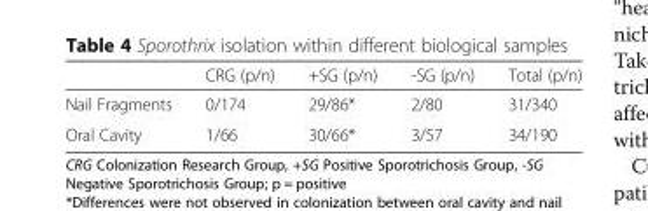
<table><thead><tr><td></td><td>CRG (p/n)</td><td>+SG (p/n)</td><td>-SG (p/n)</td><td>Total (p/n)</td></tr></thead><tbody><tr><td>Nail Fragments</td><td>0/174</td><td>29/86*</td><td>2/80</td><td>31/340</td></tr><tr><td>Oral Cavity</td><td>1/66</td><td>30/66*</td><td>3/57</td><td>34/190</td></tr></tbody></table>